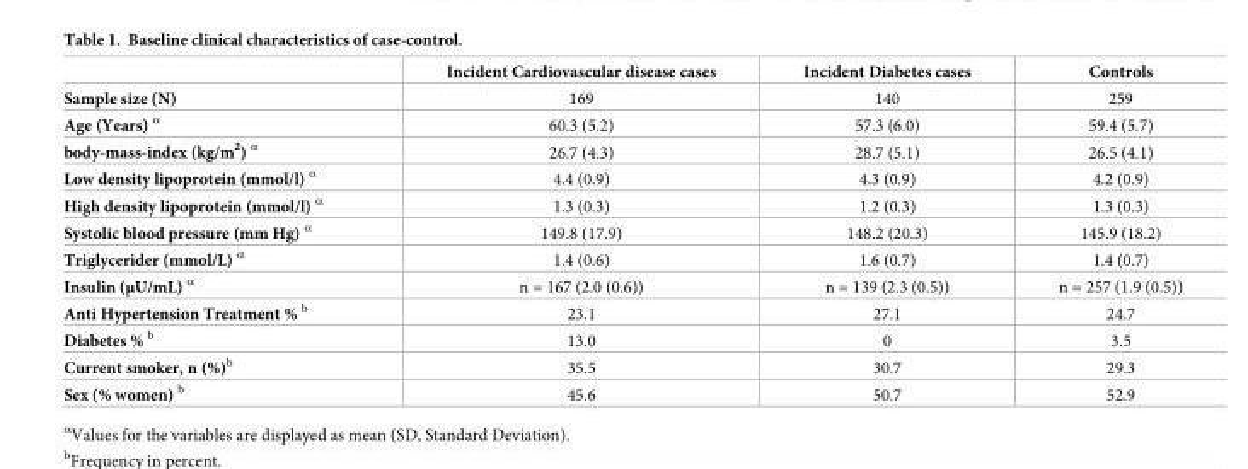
<table><thead><tr><td></td><td>Incident Cardiovascular disease cases</td><td>Incident Diabetes cases</td><td>Controls</td></tr></thead><tbody><tr><td>Sample size (N)</td><td>169</td><td>140</td><td>259</td></tr><tr><td>Age (Years) <sup>α</sup></td><td>60.3 (5.2)</td><td>57.3 (6.0)</td><td>59.4 (5.7)</td></tr><tr><td>body-mass-index (kg/m<sup>2</sup>) <sup>α</sup></td><td>26.7 (4.3)</td><td>28.7 (5.1)</td><td>26.5 (4.1)</td></tr><tr><td>Low density lipoprotein (mmol/l) <sup>α</sup></td><td>4.4 (0.9)</td><td>4.3 (0.9)</td><td>4.2 (0.9)</td></tr><tr><td>High density lipoprotein (mmol/l) <sup>α</sup></td><td>1.3 (0.3)</td><td>1.2 (0.3)</td><td>1.3 (0.3)</td></tr><tr><td>Systolic blood pressure (mm Hg) <sup>α</sup></td><td>149.8 (17.9)</td><td>148.2 (20.3)</td><td>145.9 (18.2)</td></tr><tr><td>Triglycerider (mmol/L) <sup>α</sup></td><td>1.4 (0.6)</td><td>1.6 (0.7)</td><td>1.4 (0.7)</td></tr><tr><td>Insulin (μU/mL) <sup>α</sup></td><td>n = 167 (2.0 (0.6))</td><td>n = 139 (2.3 (0.5))</td><td>n = 257 (1.9 (0.5))</td></tr><tr><td>Anti Hypertension Treatment % <sup>b</sup></td><td>23.1</td><td>27.1</td><td>24.7</td></tr><tr><td>Diabetes % <sup>b</sup></td><td>13.0</td><td>0</td><td>3.5</td></tr><tr><td>Current smoker, n (%)<sup>b</sup></td><td>35.5</td><td>30.7</td><td>29.3</td></tr><tr><td>Sex (% women) <sup>b</sup></td><td>45.6</td><td>50.7</td><td>52.9</td></tr></tbody></table>